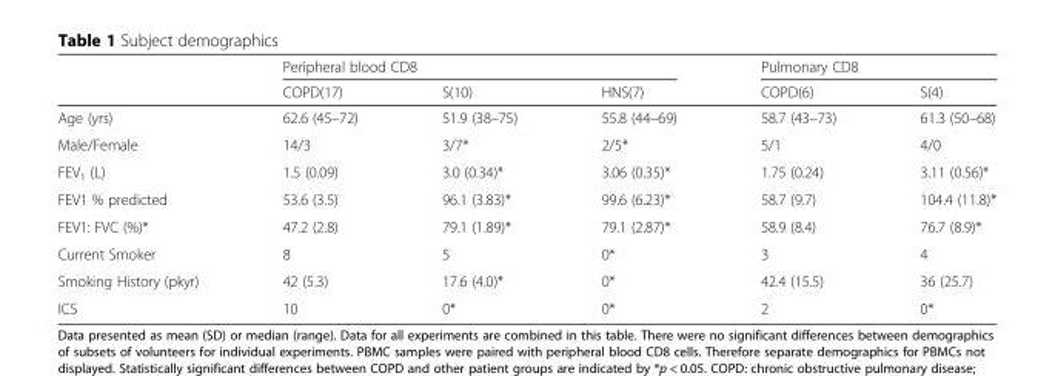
<table><thead><tr><td rowspan="2"></td><td colspan="3">Peripheral blood CD8</td><td colspan="2">Pulmonary CD8</td></tr><tr><td>COPD(17)</td><td>S(10)</td><td>HNS(7)</td><td>COPD(6)</td><td>S(4)</td></tr></thead><tbody><tr><td>Age (yrs)</td><td>62.6 (45–72)</td><td>51.9 (38–75)</td><td>55.8 (44–69)</td><td>58.7 (43–73)</td><td>61.3 (50–68)</td></tr><tr><td>Male/Female</td><td>14/3</td><td>3/7*</td><td>2/5*</td><td>5/1</td><td>4/0</td></tr><tr><td>FEV<sub>1</sub> (L)</td><td>1.5 (0.09)</td><td>3.0 (0.34)*</td><td>3.06 (0.35)*</td><td>1.75 (0.24)</td><td>3.11 (0.56)*</td></tr><tr><td>FEV1 % predicted</td><td>53.6 (3.5)</td><td>96.1 (3.83)*</td><td>99.6 (6.23)*</td><td>58.7 (9.7)</td><td>104.4 (11.8)*</td></tr><tr><td>FEV1: FVC (%)*</td><td>47.2 (2.8)</td><td>79.1 (1.89)*</td><td>79.1 (2.87)*</td><td>58.9 (8.4)</td><td>76.7 (8.9)*</td></tr><tr><td>Current Smoker</td><td>8</td><td>5</td><td>0*</td><td>3</td><td>4</td></tr><tr><td>Smoking History (pkyr)</td><td>42 (5.3)</td><td>17.6 (4.0)*</td><td>0*</td><td>42.4 (15.5)</td><td>36 (25.7)</td></tr><tr><td>ICS</td><td>10</td><td>0*</td><td>0*</td><td>2</td><td>0*</td></tr></tbody></table>